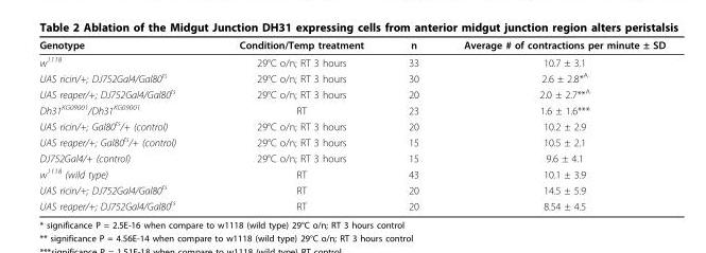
<table><thead><tr><td>Genotype</td><td>Condition/Temp treatment</td><td>n</td><td>Average # of contractions per minute ± SD</td></tr></thead><tbody><tr><td>w<sup>1118</sup></td><td>29°C o/n; RT 3 hours</td><td>33</td><td>10.7 ± 3.1</td></tr><tr><td>UAS ricin/+; DJ752Gal4/Gal80<sup>ts</sup></td><td>29°C o/n; RT 3 hours</td><td>30</td><td>2.6 ± 2.8*<sup>A</sup></td></tr><tr><td>UAS reaper/+; DJ752Gal4/Gal80<sup>ts</sup></td><td>29°C o/n; RT 3 hours</td><td>20</td><td>2.0 ± 2.7**<sup>A</sup></td></tr><tr><td>Dh31<sup>KG09001</sup>/Dh31<sup>KG09001</sup></td><td>RT</td><td>23</td><td>1.6 ± 1.6***</td></tr><tr><td>UAS ricin/+; Gal80<sup>ts</sup>/+ (control)</td><td>29°C o/n; RT 3 hours</td><td>20</td><td>10.2 ± 2.9</td></tr><tr><td>UAS reaper/+; Gal80<sup>ts</sup>/+ (control)</td><td>29°C o/n; RT 3 hours</td><td>15</td><td>10.5 ± 2.1</td></tr><tr><td>DJ752Gal4/+ (control)</td><td>29°C o/n; RT 3 hours</td><td>15</td><td>9.6 ± 4.1</td></tr><tr><td>w<sup>1118</sup> (wild type)</td><td>RT</td><td>43</td><td>10.1 ± 3.9</td></tr><tr><td>UAS ricin/+; DJ752Gal4/Gal80<sup>ts</sup></td><td>RT</td><td>20</td><td>14.5 ± 5.9</td></tr><tr><td>UAS reaper/+; DJ752Gal4/Gal80<sup>ts</sup></td><td>RT</td><td>20</td><td>8.54 ± 4.5</td></tr></tbody></table>